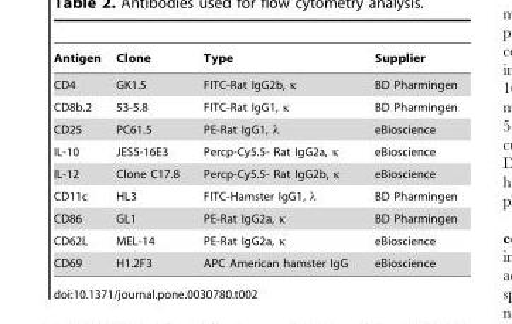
<table><thead><tr><td>Antigen</td><td>Clone</td><td>Type</td><td>Supplier</td></tr></thead><tbody><tr><td>CD4</td><td>GK1.5</td><td>FITC-Rat IgG2b, κ</td><td>BD Pharmingen</td></tr><tr><td>CD8b.2</td><td>53-5.8</td><td>FITC-Rat IgG1, κ</td><td>BD Pharmingen</td></tr><tr><td>CD25</td><td>PC61.5</td><td>PE-Rat IgG1, λ</td><td>eBioscience</td></tr><tr><td>IL-10</td><td>JES5-16E3</td><td>Percp-Cy5.5- Rat IgG2a, κ</td><td>eBioscience</td></tr><tr><td>IL-12</td><td>Clone C17.8</td><td>Percp-Cy5.5- Rat IgG2b, κ</td><td>eBioscience</td></tr><tr><td>CD11c</td><td>HL3</td><td>FITC-Hamster IgG1, λ</td><td>BD Pharmingen</td></tr><tr><td>CD86</td><td>GL1</td><td>PE-Rat IgG2a, κ</td><td>BD Pharmingen</td></tr><tr><td>CD62L</td><td>MEL-14</td><td>PE-Rat IgG2a, κ</td><td>eBioscience</td></tr><tr><td>CD69</td><td>H1.2F3</td><td>APC American hamster IgG</td><td>eBioscience</td></tr></tbody></table>